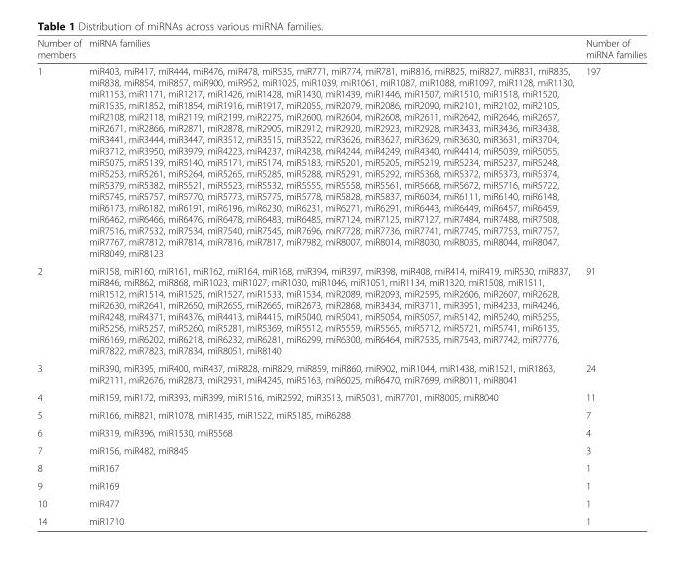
<table><thead><tr><td>Number of members</td><td>miRNA families</td><td>Number of miRNA families</td></tr></thead><tbody><tr><td>1</td><td>miR403, miR417, miR444, miR476, miR478, miR535, miR771, miR774, miR781, miR816, miR825, miR827, miR831, miR835, miR838, miR854, miR857, miR900, miR952, miR1025, miR1039, miR1061, miR1087, miR1088, miR1097, miR1128, miR1130, miR1153, miR1171, miR1217, miR1426, miR1428, miR1430, miR1439, miR1446, miR1507, miR1510, miR1518, miR1520, miR1535, miR1852, miR1854, miR1916, miR1917, miR2055, miR2079, miR2086, miR2090, miR2101, miR2102, miR2105, miR2108, miR2118, miR2119, miR2199, miR2275, miR2600, miR2604, miR2608, miR2611, miR2642, miR2646, miR2657, miR2671, miR2866, miR2871, miR2878, miR2905, miR2912, miR2920, miR2923, miR2928, miR3433, miR3436, miR3438, miR3441, miR3444, miR3447, miR3512, miR3515, miR3522, miR3626, miR3627, miR3629, miR3630, miR3631, miR3704, miR3712, miR3950, miR3979, miR4223, miR4237, miR4238, miR4244, miR4249, miR4340, miR4414, miR5039, miR5055, miR5075, miR5139, miR5140, miR5171, miR5174, miR5183, miR5201, miR5205, miR5219, miR5234, miR5237, miR5248, miR5253, miR5261, miR5264, miR5265, miR5285, miR5288, miR5291, miR5292, miR5368, miR5372, miR5373, miR5374, miR5379, miR5382, miR5521, miR5523, miR5532, miR5555, miR5558, miR5561, miR5668, miR5672, miR5716, miR5722, miR5745, miR5757, miR5770, miR5773, miR5775, miR5778, miR5828, miR5837, miR6034, miR6111, miR6140, miR6148, miR6173, miR6182, miR6191, miR6196, miR6230, miR6231, miR6271, miR6291, miR6443, miR6449, miR6457, miR6459, miR6462, miR6466, miR6476, miR6478, miR6483, miR6485, miR7124, miR7125, miR7127, miR7484, miR7488, miR7508, miR7516, miR7532, miR7534, miR7540, miR7545, miR7696, miR7728, miR7736, miR7741, miR7745, miR7753, miR7757, miR7767, miR7812, miR7814, miR7816, miR7817, miR7982, miR8007, miR8014, miR8030, miR8035, miR8044, miR8047, miR8049, miR8123</td><td>197</td></tr><tr><td>2</td><td>miR158, miR160, miR161, miR162, miR164, miR168, miR394, miR397, miR398, miR408, miR414, miR419, miR530, miR837, miR846, miR862, miR868, miR1023, miR1027, miR1030, miR1046, miR1051, miR1134, miR1320, miR1508, miR1511, miR1512, miR1514, miR1525, miR1527, miR1533, miR1534, miR2089, miR2093, miR2595, miR2606, miR2607, miR2628, miR2630, miR2641, miR2650, miR2655, miR2665, miR2673, miR2868, miR3434, miR3711, miR3951, miR4233, miR4246, miR4248, miR4371, miR4376, miR4413, miR4415, miR5040, miR5041, miR5054, miR5057, miR5142, miR5240, miR5255, miR5256, miR5257, miR5260, miR5281, miR5369, miR5512, miR5559, miR5565, miR5712, miR5721, miR5741, miR6135, miR6169, miR6202, miR6218, miR6232, miR6281, miR6299, miR6300, miR6464, miR7535, miR7543, miR7742, miR7776, miR7822, miR7823, miR7834, miR8051, miR8140</td><td>91</td></tr><tr><td>3</td><td>miR390, miR395, miR400, miR437, miR828, miR829, miR859, miR860, miR902, miR1044, miR1438, miR1521, miR1863, miR2111, miR2676, miR2873, miR2931, miR4245, miR5163, miR6025, miR6470, miR7699, miR8011, miR8041</td><td>24</td></tr><tr><td>4</td><td>miR159, miR172, miR393, miR399, miR1516, miR2592, miR3513, miR5031, miR7701, miR8005, miR8040</td><td>11</td></tr><tr><td>5</td><td>miR166, miR821, miR1078, miR1435, miR1522, miR5185, miR6288</td><td>7</td></tr><tr><td>6</td><td>miR319, miR396, miR1530, miR5568</td><td>4</td></tr><tr><td>7</td><td>miR156, miR482, miR845</td><td>3</td></tr><tr><td>8</td><td>miR167</td><td>1</td></tr><tr><td>9</td><td>miR169</td><td>1</td></tr><tr><td>10</td><td>miR477</td><td>1</td></tr><tr><td>14</td><td>miR1710</td><td>1</td></tr></tbody></table>